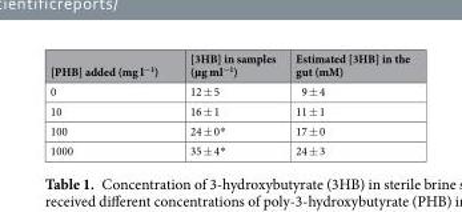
<table><thead><tr><td>[PHB] added (mg l<sup>−1</sup>)</td><td>[3HB] in samples (µg ml<sup>−1</sup>)</td><td>Estimated [3HB] in the gut (mM)</td></tr></thead><tbody><tr><td>0</td><td>12 ± 5</td><td>9 ± 4</td></tr><tr><td>10</td><td>16 ± 1</td><td>11 ± 1</td></tr><tr><td>100</td><td>24 ± 0*</td><td>17 ± 0</td></tr><tr><td>1000</td><td>35 ± 4*</td><td>24 ± 3</td></tr></tbody></table>